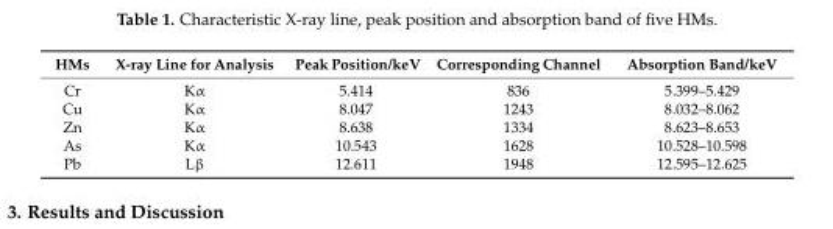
<table><thead><tr><td>HMs</td><td>X-ray Line for Analysis</td><td>Peak Position/keV</td><td>Corresponding Channel</td><td>Absorption Band/keV</td></tr></thead><tbody><tr><td>Cr</td><td>Kα</td><td>5.414</td><td>836</td><td>5.399–5.429</td></tr><tr><td>Cu</td><td>Kα</td><td>8.047</td><td>1243</td><td>8.032–8.062</td></tr><tr><td>Zn</td><td>Kα</td><td>8.638</td><td>1334</td><td>8.623–8.653</td></tr><tr><td>As</td><td>Kα</td><td>10.543</td><td>1628</td><td>10.528–10.598</td></tr><tr><td>Pb</td><td>Lβ</td><td>12.611</td><td>1948</td><td>12.595–12.625</td></tr></tbody></table>